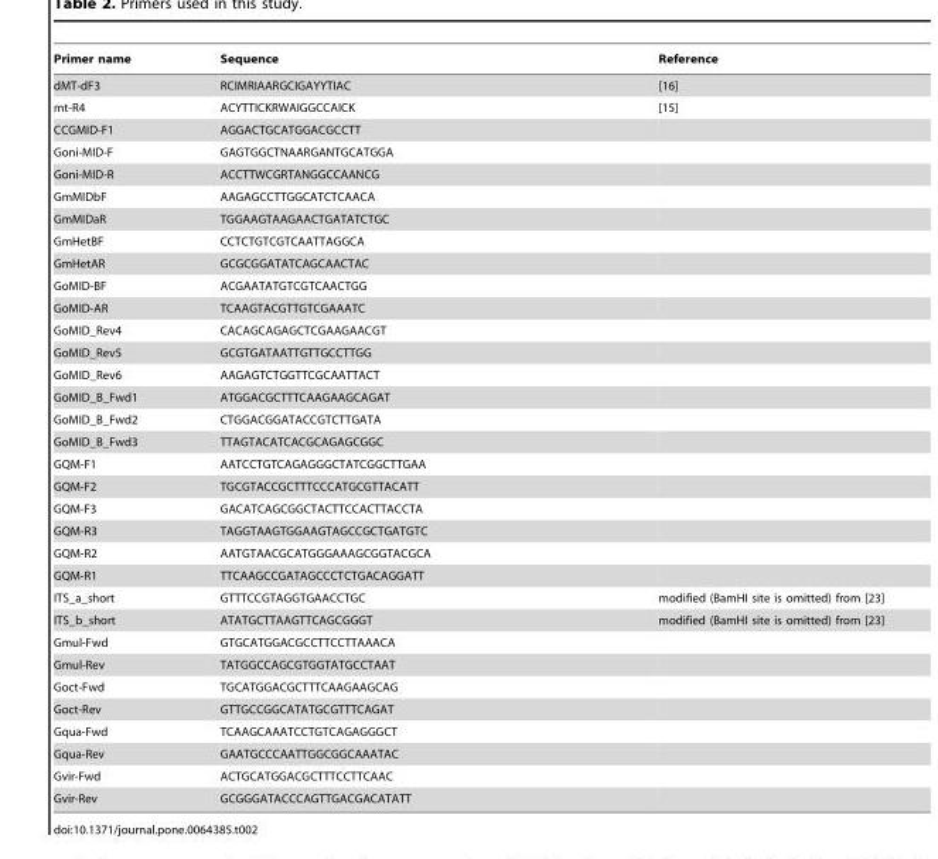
<table><thead><tr><td>Primer name</td><td>Sequence</td><td>Reference</td></tr></thead><tbody><tr><td>dMT-dF3</td><td>RCIMRIAARGCIGAYYTIAC</td><td>[16]</td></tr><tr><td>mt-R4</td><td>ACYTTICKRWAIGGCCAICK</td><td>[15]</td></tr><tr><td>CCGMID-F1</td><td>AGGACTGCATGGACGCCTT</td><td></td></tr><tr><td>Goni-MID-F</td><td>GAGTGGCTNAARGANTGCATGGA</td><td></td></tr><tr><td>Goni-MID-R</td><td>ACCTTWCGRTANGGCCAANCG</td><td></td></tr><tr><td>GmMIDbF</td><td>AAGAGCCTTGGCATCTCAACA</td><td></td></tr><tr><td>GmMIDaR</td><td>TGGAAGTAAGAACTGATATCTGC</td><td></td></tr><tr><td>GmHetBF</td><td>CCTCTGTCGTCAATTAGGCA</td><td></td></tr><tr><td>GmHetAR</td><td>GCGCGGATATCAGCAACTAC</td><td></td></tr><tr><td>GoMID-BF</td><td>ACGAATATGTCGTCAACTGG</td><td></td></tr><tr><td>GoMID-AR</td><td>TCAAGTACGTTGTCGAAATC</td><td></td></tr><tr><td>GoMID_Rev4</td><td>CACAGCAGAGCTCGAAGAACGT</td><td></td></tr><tr><td>GoMID_Rev5</td><td>GCGTGATAATTGTTGCCTTGG</td><td></td></tr><tr><td>GoMID_Rev6</td><td>AAGAGTCTGGTTCGCAATTACT</td><td></td></tr><tr><td>GoMID_B_Fwd1</td><td>ATGGACGCTTTCAAGAAGCAGAT</td><td></td></tr><tr><td>GoMID_B_Fwd2</td><td>CTGGACGGATACCGTCTTGATA</td><td></td></tr><tr><td>GoMID_B_Fwd3</td><td>TTAGTACATCACGCAGAGCGGC</td><td></td></tr><tr><td>GQM-F1</td><td>AATCCTGTCAGAGGGCTATCGGCTTGAA</td><td></td></tr><tr><td>GQM-F2</td><td>TGCGTACCGCTTTCCCATGCGTTACATT</td><td></td></tr><tr><td>GQM-F3</td><td>GACATCAGCGGCTACTTCCACTTACCTA</td><td></td></tr><tr><td>GQM-R3</td><td>TAGGTAAGTGGAAGTAGCCGCTGATGTC</td><td></td></tr><tr><td>GQM-R2</td><td>AATGTAACGCATGGGAAAGCGGTACGCA</td><td></td></tr><tr><td>GQM-R1</td><td>TTCAAGCCGATAGCCCTCTGACAGGATT</td><td></td></tr><tr><td>ITS_a_short</td><td>GTTTCCGTAGGTGAACCTGC</td><td>modified (BamHI site is omitted) from [23]</td></tr><tr><td>ITS_b_short</td><td>ATATGCTTAAGTTCAGCGGGT</td><td>modified (BamHI site is omitted) from [23]</td></tr><tr><td>Gmul-Fwd</td><td>GTGCATGGACGCCTTCCTTAAACA</td><td></td></tr><tr><td>Gmul-Rev</td><td>TATGGCCAGCGTGGTATGCCTAAT</td><td></td></tr><tr><td>Goct-Fwd</td><td>TGCATGGACGCTTTCAAGAAGCAG</td><td></td></tr><tr><td>Goct-Rev</td><td>GTTGCCGGCATATGCGTTTCAGAT</td><td></td></tr><tr><td>Gqua-Fwd</td><td>TCAAGCAAATCCTGTCAGAGGGCT</td><td></td></tr><tr><td>Gqua-Rev</td><td>GAATGCCCAATTGGCGGCAAATAC</td><td></td></tr><tr><td>Gvir-Fwd</td><td>ACTGCATGGACGCTTTCCTTCAAC</td><td></td></tr><tr><td>Gvir-Rev</td><td>GCGGGATACCCAGTTGACGACATATT</td><td></td></tr></tbody></table>